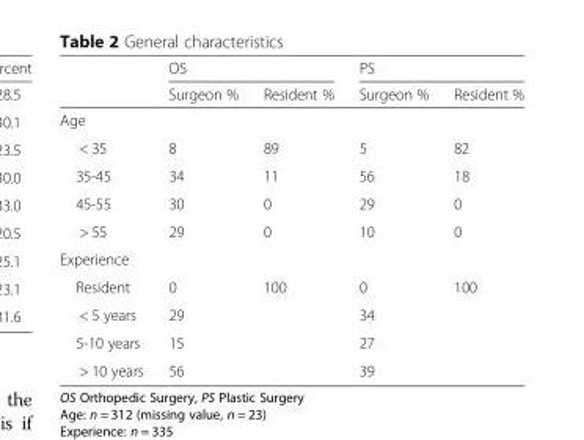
<table><thead><tr><td rowspan="2"></td><td colspan="2">OS</td><td colspan="2">PS</td></tr><tr><td>Surgeon %</td><td>Resident %</td><td>Surgeon %</td><td>Resident %</td></tr></thead><tbody><tr><td colspan="5">Age</td></tr><tr><td>&lt; 35</td><td>8</td><td>89</td><td>5</td><td>82</td></tr><tr><td>35-45</td><td>34</td><td>11</td><td>56</td><td>18</td></tr><tr><td>45-55</td><td>30</td><td>0</td><td>29</td><td>0</td></tr><tr><td>&gt; 55</td><td>29</td><td>0</td><td>10</td><td>0</td></tr><tr><td colspan="5">Experience</td></tr><tr><td>Resident</td><td>0</td><td>100</td><td>0</td><td>100</td></tr><tr><td>&lt; 5 years</td><td>29</td><td></td><td>34</td><td></td></tr><tr><td>5-10 years</td><td>15</td><td></td><td>27</td><td></td></tr><tr><td>&gt; 10 years</td><td>56</td><td></td><td>39</td><td></td></tr></tbody></table>